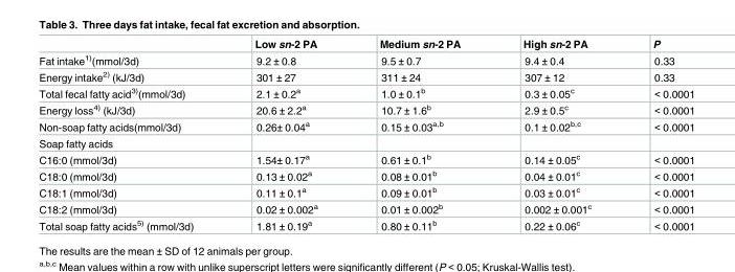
<table><thead><tr><td></td><td>Low sn-2 PA</td><td>Medium sn-2 PA</td><td>High sn-2 PA</td><td>P</td></tr></thead><tbody><tr><td>Fat intake<sup>1)</sup>(mmol/3d)</td><td>9.2 ± 0.8</td><td>9.5 ± 0.7</td><td>9.4 ± 0.4</td><td>0.33</td></tr><tr><td>Energy intake<sup>2)</sup> (kJ/3d)</td><td>301 ± 27</td><td>311 ± 24</td><td>307 ± 12</td><td>0.33</td></tr><tr><td>Total fecal fatty acid<sup>3)</sup>(mmol/3d)</td><td>2.1 ± 0.2<sup>a</sup></td><td>1.0 ± 0.1<sup>b</sup></td><td>0.3 ± 0.05<sup>c</sup></td><td>&lt; 0.0001</td></tr><tr><td>Energy loss<sup>4)</sup> (kJ/3d)</td><td>20.6 ± 2.2<sup>a</sup></td><td>10.7 ± 1.6<sup>b</sup></td><td>2.9 ± 0.5<sup>c</sup></td><td>&lt; 0.0001</td></tr><tr><td>Non-soap fatty acids(mmol/3d)</td><td>0.26± 0.04<sup>a</sup></td><td>0.15 ± 0.03<sup>a,b</sup></td><td>0.1 ± 0.02<sup>b,c</sup></td><td>&lt; 0.0001</td></tr><tr><td colspan="5">Soap fatty acids</td></tr><tr><td>C16:0 (mmol/3d)</td><td>1.54± 0.17<sup>a</sup></td><td>0.61 ± 0.1<sup>b</sup></td><td>0.14 ± 0.05<sup>c</sup></td><td>&lt; 0.0001</td></tr><tr><td>C18:0 (mmol/3d)</td><td>0.13 ± 0.02<sup>a</sup></td><td>0.08 ± 0.01<sup>b</sup></td><td>0.04 ± 0.01<sup>c</sup></td><td>&lt; 0.0001</td></tr><tr><td>C18:1 (mmol/3d)</td><td>0.11 ± 0.1<sup>a</sup></td><td>0.09 ± 0.01<sup>b</sup></td><td>0.03 ± 0.01<sup>c</sup></td><td>&lt; 0.0001</td></tr><tr><td>C18:2 (mmol/3d)</td><td>0.02 ± 0.002<sup>a</sup></td><td>0.01 ± 0.002<sup>b</sup></td><td>0.002 ± 0.001<sup>c</sup></td><td>&lt; 0.0001</td></tr><tr><td>Total soap fatty acids<sup>5)</sup> (mmol/3d)</td><td>1.81 ± 0.19<sup>a</sup></td><td>0.80 ± 0.11<sup>b</sup></td><td>0.22 ± 0.06<sup>c</sup></td><td>&lt; 0.0001</td></tr></tbody></table>